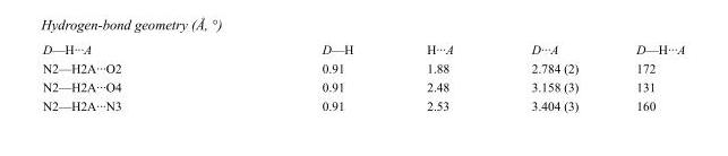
<table><tbody><tr><td>D—H···A</td><td>D—H</td><td>H···A</td><td>D···A</td><td>D—H···A</td></tr><tr><td>N2—H2A···O2</td><td>0.91</td><td>1.88</td><td>2.784 (2)</td><td>172</td></tr><tr><td>N2—H2A···O4</td><td>0.91</td><td>2.48</td><td>3.158 (3)</td><td>131</td></tr><tr><td>N2—H2A···N3</td><td>0.91</td><td>2.53</td><td>3.404 (3)</td><td>160</td></tr></tbody></table>